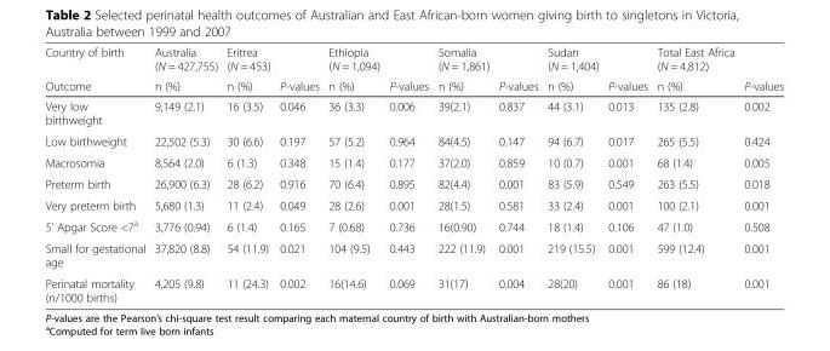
<table><thead><tr><td rowspan="2">Country of birth Outcome</td><td rowspan="2">Australia (N = 427,755) n (%)</td><td rowspan="2">Eritrea (N = 453) n (%)</td><td rowspan="2">P-values</td><td rowspan="2">Ethiopia (N = 1,094) n (%)</td><td rowspan="2">P-values</td><td rowspan="2">Somalia (N = 1,861) n (%)</td><td rowspan="2">P-values</td><td rowspan="2">Sudan (N = 1,404) n (%)</td><td rowspan="2">P-values</td><td rowspan="2">Total East Africa (N = 4,812) n (%)</td><td rowspan="2">P-values</td></tr><tr></tr></thead><tbody><tr><td>Very low birthweight</td><td>9,149 (2.1)</td><td>16 (3.5)</td><td>0.046</td><td>36 (3.3)</td><td>0.006</td><td>39(2.1)</td><td>0.837</td><td>44 (3.1)</td><td>0.013</td><td>135 (2.8)</td><td>0.002</td></tr><tr><td>Low birthweight</td><td>22,502 (5.3)</td><td>30 (6.6)</td><td>0.197</td><td>57 (5.2)</td><td>0.964</td><td>84(4.5)</td><td>0.147</td><td>94 (6.7)</td><td>0.017</td><td>265 (5.5)</td><td>0.424</td></tr><tr><td>Macrosomia</td><td>8,564 (2.0)</td><td>6 (1.3)</td><td>0.348</td><td>15 (1.4)</td><td>0.177</td><td>37(2.0)</td><td>0.859</td><td>10 (0.7)</td><td>0.001</td><td>68 (1.4)</td><td>0.005</td></tr><tr><td>Preterm birth</td><td>26,900 (6.3)</td><td>28 (6.2)</td><td>0.916</td><td>70 (6.4)</td><td>0.895</td><td>82(4.4)</td><td>0.001</td><td>83 (5.9)</td><td>0.549</td><td>263 (5.5)</td><td>0.018</td></tr><tr><td>Very preterm birth</td><td>5,680 (1.3)</td><td>11 (2.4)</td><td>0.049</td><td>28 (2.6)</td><td>0.001</td><td>28(1.5)</td><td>0.581</td><td>33 (2.4)</td><td>0.001</td><td>100 (2.1)</td><td>0.001</td></tr><tr><td>5’ Apgar Score &lt;7<sup>a</sup></td><td>3,776 (0.94)</td><td>6 (1.4)</td><td>0.165</td><td>7 (0.68)</td><td>0.736</td><td>16(0.90)</td><td>0.744</td><td>18 (1.4)</td><td>0.106</td><td>47 (1.0)</td><td>0.508</td></tr><tr><td>Small for gestational age</td><td>37,820 (8.8)</td><td>54 (11.9)</td><td>0.021</td><td>104 (9.5)</td><td>0.443</td><td>222 (11.9)</td><td>0.001</td><td>219 (15.5)</td><td>0.001</td><td>599 (12.4)</td><td>0.001</td></tr><tr><td>Perinatal mortality (n/1000 births)</td><td>4,205 (9.8)</td><td>11 (24.3)</td><td>0.002</td><td>16(14.6)</td><td>0.069</td><td>31(17)</td><td>0.004</td><td>28(20)</td><td>0.001</td><td>86 (18)</td><td>0.001</td></tr></tbody></table>